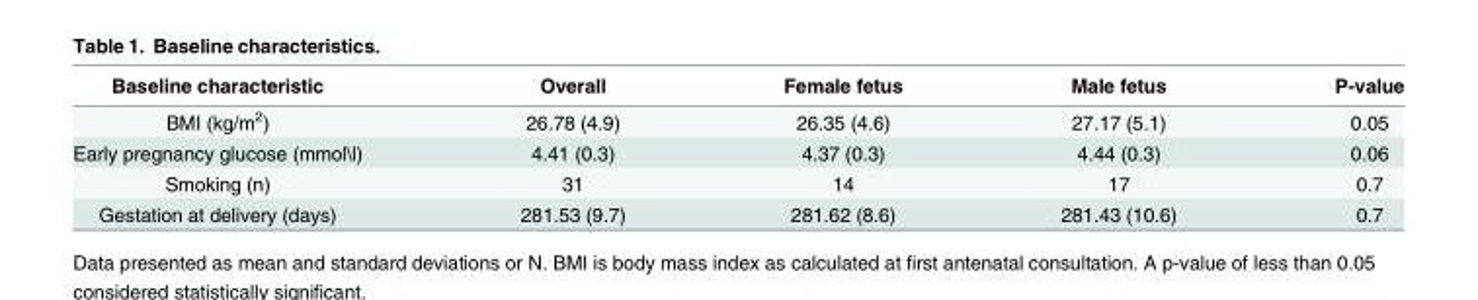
<table><thead><tr><td>Baseline characteristic</td><td>Overall</td><td>Female fetus</td><td>Male fetus</td><td>P-value</td></tr></thead><tbody><tr><td>BMI (kg/m<sup>2</sup>)</td><td>26.78 (4.9)</td><td>26.35 (4.6)</td><td>27.17 (5.1)</td><td>0.05</td></tr><tr><td>Early pregnancy glucose (mmol\l)</td><td>4.41 (0.3)</td><td>4.37 (0.3)</td><td>4.44 (0.3)</td><td>0.06</td></tr><tr><td>Smoking (n)</td><td>31</td><td>14</td><td>17</td><td>0.7</td></tr><tr><td>Gestation at delivery (days)</td><td>281.53 (9.7)</td><td>281.62 (8.6)</td><td>281.43 (10.6)</td><td>0.7</td></tr></tbody></table>